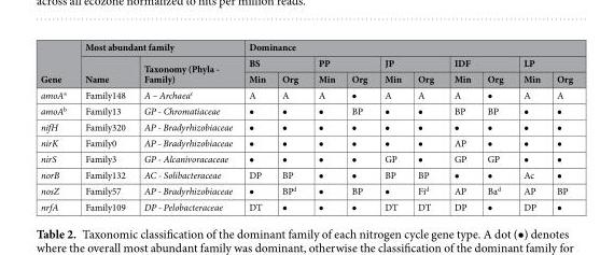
<table><thead><tr><td rowspan="3">Gene</td><td colspan="2">Most abundant family</td><td colspan="10">Dominance</td></tr><tr><td rowspan="2">Name</td><td rowspan="2">Taxonomy (Phyla - Family)</td><td colspan="2">BS</td><td colspan="2">PP</td><td colspan="2">JP</td><td colspan="2">IDF</td><td colspan="2">LP</td></tr><tr><td>Min</td><td>Org</td><td>Min</td><td>Org</td><td>Min</td><td>Org</td><td>Min</td><td>Org</td><td>Min</td><td>Org</td></tr></thead><tbody><tr><td>amoA<sup>a</sup></td><td>Family148</td><td>A – Archaea<sup>c</sup></td><td>A</td><td>A</td><td>A</td><td>•</td><td>A</td><td>A</td><td>A</td><td>•</td><td>A</td><td>A</td></tr><tr><td>amoA<sup>b</sup></td><td>Family13</td><td>GP - Chromatiaceae</td><td>•</td><td>•</td><td>•</td><td>BP</td><td>•</td><td>•</td><td>BP</td><td>BP</td><td>•</td><td>•</td></tr><tr><td>nifH</td><td>Family320</td><td>AP - Bradyrhizobiaceae</td><td>•</td><td>•</td><td>•</td><td>•</td><td>•</td><td>•</td><td>•</td><td>•</td><td>•</td><td>•</td></tr><tr><td>nirK</td><td>Family0</td><td>AP - Bradyrhizobiaceae</td><td>•</td><td>•</td><td>•</td><td>•</td><td>•</td><td>•</td><td>AP</td><td>•</td><td>•</td><td>•</td></tr><tr><td>nirS</td><td>Family3</td><td>GP - Alcanivoracaceae</td><td>•</td><td>•</td><td>•</td><td>•</td><td>GP</td><td>•</td><td>GP</td><td>GP</td><td>•</td><td>•</td></tr><tr><td>norB</td><td>Family132</td><td>AC - Solibacteraceae</td><td>DP</td><td>BP</td><td>•</td><td>•</td><td>BP</td><td>BP</td><td>•</td><td>•</td><td>Ac</td><td>•</td></tr><tr><td>nosZ</td><td>Family57</td><td>AP - Bradyrhizobiaceae</td><td>•</td><td>BP<sup>d</sup></td><td>•</td><td>BP</td><td>•</td><td>Fi<sup>d</sup></td><td>AP</td><td>Ba<sup>d</sup></td><td>AP</td><td>BP</td></tr><tr><td>nrfA</td><td>Family109</td><td>DP - Pelobacteraceae</td><td>DT</td><td>•</td><td>•</td><td>•</td><td>DT</td><td>DT</td><td>DP</td><td>•</td><td>DP</td><td>•</td></tr></tbody></table>